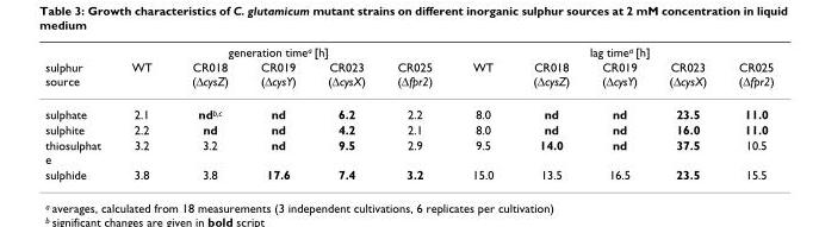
<table><thead><tr><td rowspan="2">sulphur source</td><td colspan="5">generation time<sup>a</sup> [h]</td><td colspan="5">lag time<sup>a</sup> [h]</td></tr><tr><td>WT</td><td>CR018 (∆cysZ)</td><td>CR019 (∆cysY)</td><td>CR023 (∆cysX)</td><td>CR025 (∆fpr2)</td><td>WT</td><td>CR018 (∆cysZ)</td><td>CR019 (∆cysY)</td><td>CR023 (∆cysX)</td><td>CR025 (∆fpr2)</td></tr></thead><tbody><tr><td>sulphate</td><td>2.1</td><td>nd<sup>b,c</sup></td><td>nd</td><td>6.2</td><td>2.2</td><td>8.0</td><td>nd</td><td>nd</td><td>23.5</td><td>11.0</td></tr><tr><td>sulphite</td><td>2.2</td><td>nd</td><td>nd</td><td>4.2</td><td>2.1</td><td>8.0</td><td>nd</td><td>nd</td><td>16.0</td><td>11.0</td></tr><tr><td>thiosulphat e</td><td>3.2</td><td>3.2</td><td>nd</td><td>9.5</td><td>2.9</td><td>9.5</td><td>14.0</td><td>nd</td><td>37.5</td><td>10.5</td></tr><tr><td>sulphide</td><td>3.8</td><td>3.8</td><td>17.6</td><td>7.4</td><td>3.2</td><td>15.0</td><td>13.5</td><td>16.5</td><td>23.5</td><td>15.5</td></tr></tbody></table>